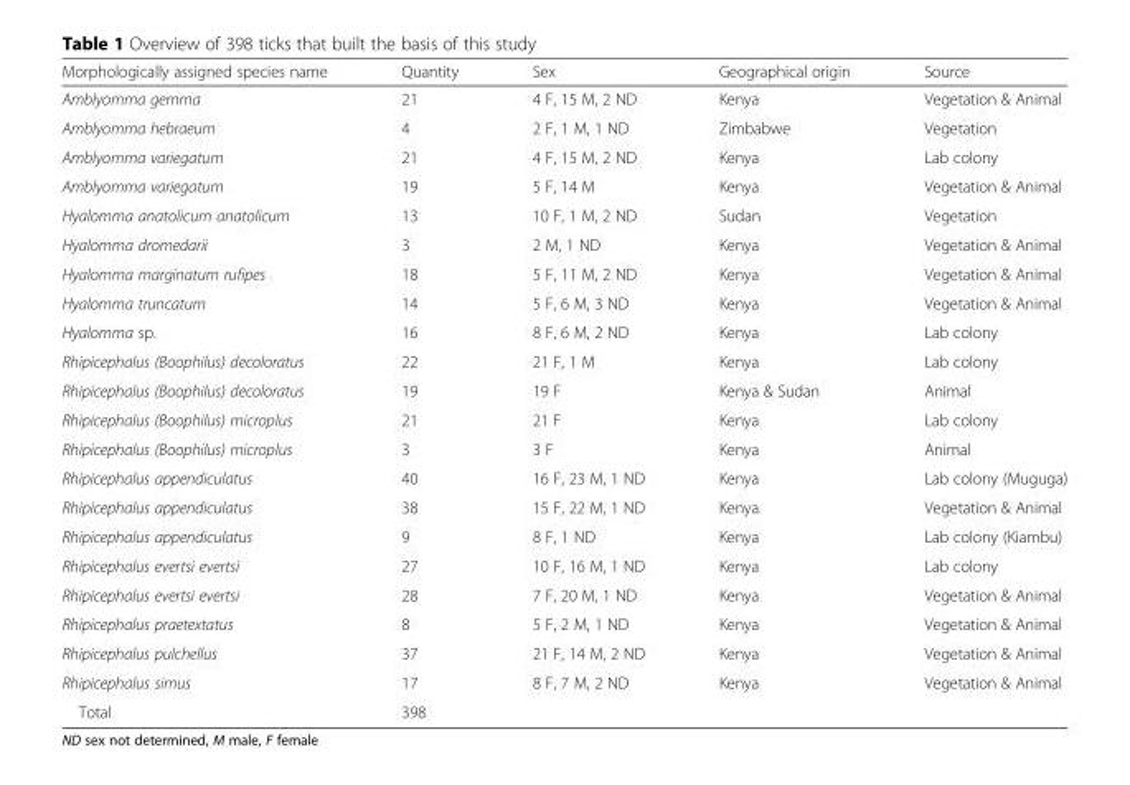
<table><thead><tr><td>Morphologically assigned species name</td><td>Quantity</td><td>Sex</td><td>Geographical origin</td><td>Source</td></tr></thead><tbody><tr><td>Amblyomma gemma</td><td>21</td><td>4 F, 15 M, 2 ND</td><td>Kenya</td><td>Vegetation &amp; Animal</td></tr><tr><td>Amblyomma hebraeum</td><td>4</td><td>2 F, 1 M, 1 ND</td><td>Zimbabwe</td><td>Vegetation</td></tr><tr><td>Amblyomma variegatum</td><td>21</td><td>4 F, 15 M, 2 ND</td><td>Kenya</td><td>Lab colony</td></tr><tr><td>Amblyomma variegatum</td><td>19</td><td>5 F, 14 M</td><td>Kenya</td><td>Vegetation &amp; Animal</td></tr><tr><td>Hyalomma anatolicum anatolicum</td><td>13</td><td>10 F, 1 M, 2 ND</td><td>Sudan</td><td>Vegetation</td></tr><tr><td>Hyalomma dromedarii</td><td>3</td><td>2 M, 1 ND</td><td>Kenya</td><td>Vegetation &amp; Animal</td></tr><tr><td>Hyalomma marginatum rufipes</td><td>18</td><td>5 F, 11 M, 2 ND</td><td>Kenya</td><td>Vegetation &amp; Animal</td></tr><tr><td>Hyalomma truncatum</td><td>14</td><td>5 F, 6 M, 3 ND</td><td>Kenya</td><td>Vegetation &amp; Animal</td></tr><tr><td>Hyalomma sp.</td><td>16</td><td>8 F, 6 M, 2 ND</td><td>Kenya</td><td>Lab colony</td></tr><tr><td>Rhipicephalus (Boophilus) decoloratus</td><td>22</td><td>21 F, 1 M</td><td>Kenya</td><td>Lab colony</td></tr><tr><td>Rhipicephalus (Boophilus) decoloratus</td><td>19</td><td>19 F</td><td>Kenya &amp; Sudan</td><td>Animal</td></tr><tr><td>Rhipicephalus (Boophilus) microplus</td><td>21</td><td>21 F</td><td>Kenya</td><td>Lab colony</td></tr><tr><td>Rhipicephalus (Boophilus) microplus</td><td>3</td><td>3 F</td><td>Kenya</td><td>Animal</td></tr><tr><td>Rhipicephalus appendiculatus</td><td>40</td><td>16 F, 23 M, 1 ND</td><td>Kenya</td><td>Lab colony (Muguga)</td></tr><tr><td>Rhipicephalus appendiculatus</td><td>38</td><td>15 F, 22 M, 1 ND</td><td>Kenya</td><td>Vegetation &amp; Animal</td></tr><tr><td>Rhipicephalus appendiculatus</td><td>9</td><td>8 F, 1 ND</td><td>Kenya</td><td>Lab colony (Kiambu)</td></tr><tr><td>Rhipicephalus evertsi evertsi</td><td>27</td><td>10 F, 16 M, 1 ND</td><td>Kenya</td><td>Lab colony</td></tr><tr><td>Rhipicephalus evertsi evertsi</td><td>28</td><td>7 F, 20 M, 1 ND</td><td>Kenya</td><td>Vegetation &amp; Animal</td></tr><tr><td>Rhipicephalus praetextatus</td><td>8</td><td>5 F, 2 M, 1 ND</td><td>Kenya</td><td>Vegetation &amp; Animal</td></tr><tr><td>Rhipicephalus pulchellus</td><td>37</td><td>21 F, 14 M, 2 ND</td><td>Kenya</td><td>Vegetation &amp; Animal</td></tr><tr><td>Rhipicephalus simus</td><td>17</td><td>8 F, 7 M, 2 ND</td><td>Kenya</td><td>Vegetation &amp; Animal</td></tr><tr><td>Total</td><td>398</td><td></td><td></td><td></td></tr></tbody></table>